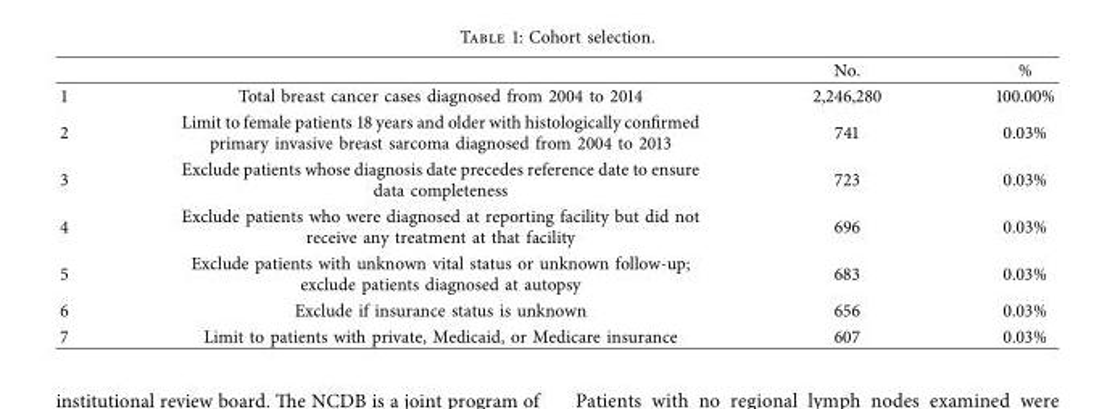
<table><thead><tr><td></td><td></td><td>No.</td><td>%</td></tr></thead><tbody><tr><td>1</td><td>Total breast cancer cases diagnosed from 2004 to 2014</td><td>2,246,280</td><td>100.00%</td></tr><tr><td>2</td><td>Limit to female patients 18 years and older with histologically confirmed primary invasive breast sarcoma diagnosed from 2004 to 2013</td><td>741</td><td>0.03%</td></tr><tr><td>3</td><td>Exclude patients whose diagnosis date precedes reference date to ensure data completeness</td><td>723</td><td>0.03%</td></tr><tr><td>4</td><td>Exclude patients who were diagnosed at reporting facility but did not receive any treatment at that facility</td><td>696</td><td>0.03%</td></tr><tr><td>5</td><td>Exclude patients with unknown vital status or unknown follow-up; exclude patients diagnosed at autopsy</td><td>683</td><td>0.03%</td></tr><tr><td>6</td><td>Exclude if insurance status is unknown</td><td>656</td><td>0.03%</td></tr><tr><td>7</td><td>Limit to patients with private, Medicaid, or Medicare insurance</td><td>607</td><td>0.03%</td></tr></tbody></table>